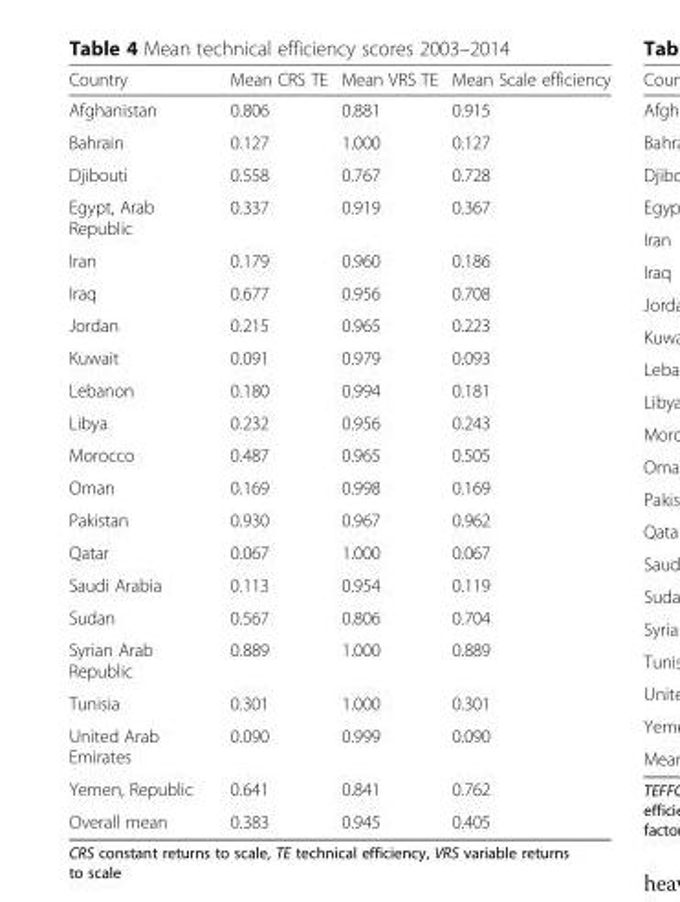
<table><thead><tr><td>Country</td><td>Mean CRS TE</td><td>Mean VRS TE</td><td>Mean Scale efficiency</td></tr></thead><tbody><tr><td>Afghanistan</td><td>0.806</td><td>0.881</td><td>0.915</td></tr><tr><td>Bahrain</td><td>0.127</td><td>1.000</td><td>0.127</td></tr><tr><td>Djibouti</td><td>0.558</td><td>0.767</td><td>0.728</td></tr><tr><td>Egypt, Arab Republic</td><td>0.337</td><td>0.919</td><td>0.367</td></tr><tr><td>Iran</td><td>0.179</td><td>0.960</td><td>0.186</td></tr><tr><td>Iraq</td><td>0.677</td><td>0.956</td><td>0.708</td></tr><tr><td>Jordan</td><td>0.215</td><td>0.965</td><td>0.223</td></tr><tr><td>Kuwait</td><td>0.091</td><td>0.979</td><td>0.093</td></tr><tr><td>Lebanon</td><td>0.180</td><td>0.994</td><td>0.181</td></tr><tr><td>Libya</td><td>0.232</td><td>0.956</td><td>0.243</td></tr><tr><td>Morocco</td><td>0.487</td><td>0.965</td><td>0.505</td></tr><tr><td>Oman</td><td>0.169</td><td>0.998</td><td>0.169</td></tr><tr><td>Pakistan</td><td>0.930</td><td>0.967</td><td>0.962</td></tr><tr><td>Qatar</td><td>0.067</td><td>1.000</td><td>0.067</td></tr><tr><td>Saudi Arabia</td><td>0.113</td><td>0.954</td><td>0.119</td></tr><tr><td>Sudan</td><td>0.567</td><td>0.806</td><td>0.704</td></tr><tr><td>Syrian Arab Republic</td><td>0.889</td><td>1.000</td><td>0.889</td></tr><tr><td>Tunisia</td><td>0.301</td><td>1.000</td><td>0.301</td></tr><tr><td>United Arab Emirates</td><td>0.090</td><td>0.999</td><td>0.090</td></tr><tr><td>Yemen, Republic</td><td>0.641</td><td>0.841</td><td>0.762</td></tr><tr><td>Overall mean</td><td>0.383</td><td>0.945</td><td>0.405</td></tr></tbody></table>